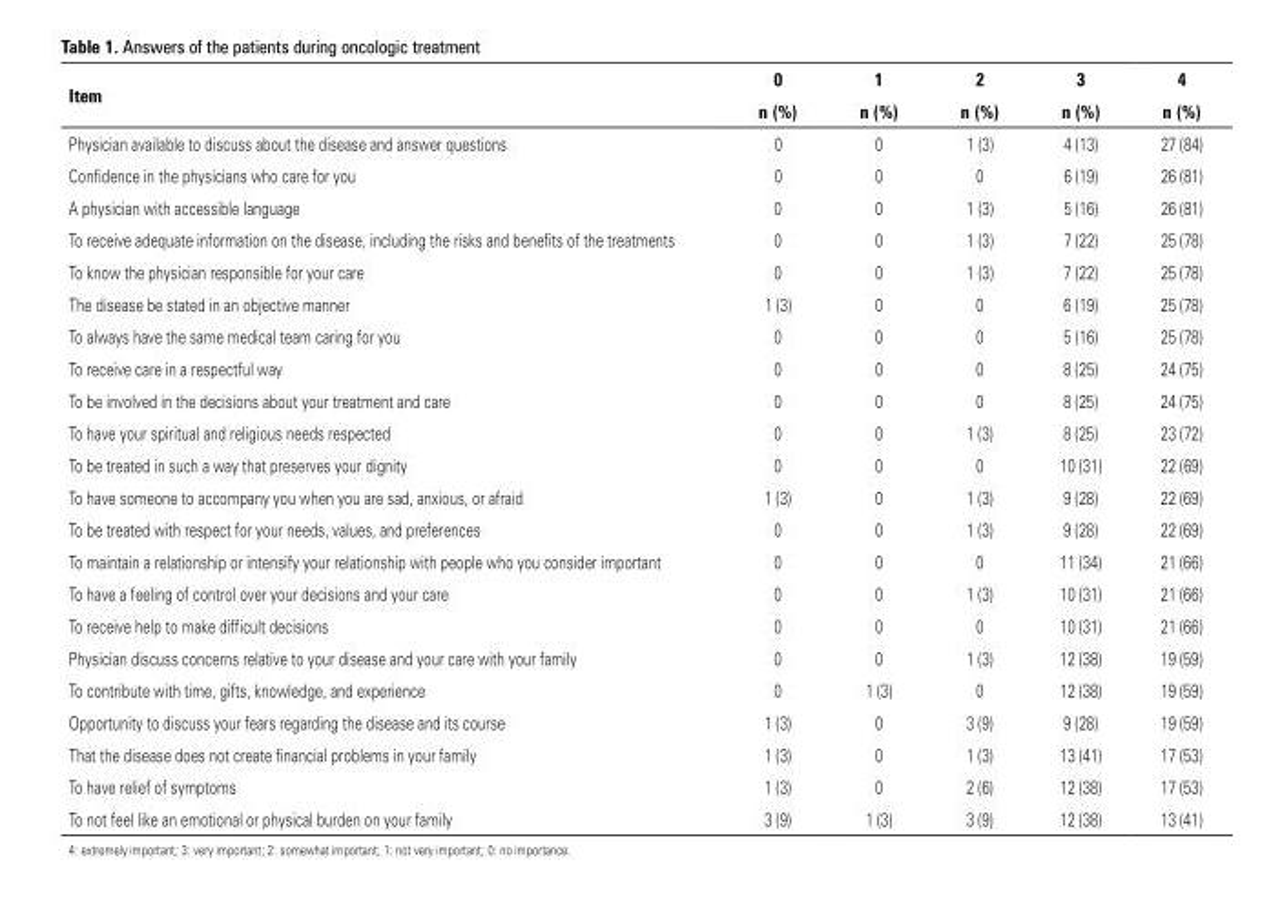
<table><thead><tr><td rowspan="2">Item</td><td rowspan="2">0 n (%)</td><td rowspan="2">1 n (%)</td><td rowspan="2">2 n (%)</td><td rowspan="2">3 n (%)</td><td rowspan="2">4 n (%)</td></tr><tr></tr></thead><tbody><tr><td>Physician available to discuss about the disease and answer questions</td><td>0</td><td>0</td><td>1 (3)</td><td>4 (13)</td><td>27 (84)</td></tr><tr><td>Confidence in the physicians who care for you</td><td>0</td><td>0</td><td>0</td><td>6 (19)</td><td>26 (81)</td></tr><tr><td>A physician with accessible language</td><td>0</td><td>0</td><td>1 (3)</td><td>5 (16)</td><td>26 (81)</td></tr><tr><td>To receive adequate information on the disease, including the risks and benefits of the treatments</td><td>0</td><td>0</td><td>1 (3)</td><td>7 (22)</td><td>25 (78)</td></tr><tr><td>To know the physician responsible for your care</td><td>0</td><td>0</td><td>1 (3)</td><td>7 (22)</td><td>25 (78)</td></tr><tr><td>The disease be stated in an objective manner</td><td>1 (3)</td><td>0</td><td>0</td><td>6 (19)</td><td>25 (78)</td></tr><tr><td>To always have the same medical team caring for you</td><td>0</td><td>0</td><td>0</td><td>5 (16)</td><td>25 (78)</td></tr><tr><td>To receive care in a respectful way</td><td>0</td><td>0</td><td>0</td><td>8 (25)</td><td>24 (75)</td></tr><tr><td>To be involved in the decisions about your treatment and care</td><td>0</td><td>0</td><td>0</td><td>8 (25)</td><td>24 (75)</td></tr><tr><td>To have your spiritual and religious needs respected</td><td>0</td><td>0</td><td>1 (3)</td><td>8 (25)</td><td>23 (72)</td></tr><tr><td>To be treated in such a way that preserves your dignity</td><td>0</td><td>0</td><td>0</td><td>10 (31)</td><td>22 (69)</td></tr><tr><td>To have someone to accompany you when you are sad, anxious, or afraid</td><td>1 (3)</td><td>0</td><td>1 (3)</td><td>9 (28)</td><td>22 (69)</td></tr><tr><td>To be treated with respect for your needs, values, and preferences</td><td>0</td><td>0</td><td>1 (3)</td><td>9 (28)</td><td>22 (69)</td></tr><tr><td>To maintain a relationship or intensify your relationship with people who you consider important</td><td>0</td><td>0</td><td>0</td><td>11 (34)</td><td>21 (66)</td></tr><tr><td>To have a feeling of control over your decisions and your care</td><td>0</td><td>0</td><td>1 (3)</td><td>10 (31)</td><td>21 (66)</td></tr><tr><td>To receive help to make difficult decisions</td><td>0</td><td>0</td><td>0</td><td>10 (31)</td><td>21 (66)</td></tr><tr><td>Physician discuss concerns relative to your disease and your care with your family</td><td>0</td><td>0</td><td>1 (3)</td><td>12 (38)</td><td>19 (59)</td></tr><tr><td>To contribute with time, gifts, knowledge, and experience</td><td>0</td><td>1 (3)</td><td>0</td><td>12 (38)</td><td>19 (59)</td></tr><tr><td>Opportunity to discuss your fears regarding the disease and its course</td><td>1 (3)</td><td>0</td><td>3 (9)</td><td>9 (28)</td><td>19 (59)</td></tr><tr><td>That the disease does not create financial problems in your family</td><td>1 (3)</td><td>0</td><td>1 (3)</td><td>13 (41)</td><td>17 (53)</td></tr><tr><td>To have relief of symptoms</td><td>1 (3)</td><td>0</td><td>2 (6)</td><td>12 (38)</td><td>17 (53)</td></tr><tr><td>To not feel like an emotional or physical burden on your family</td><td>3 (9)</td><td>1 (3)</td><td>3 (9)</td><td>12 (38)</td><td>13 (41)</td></tr></tbody></table>